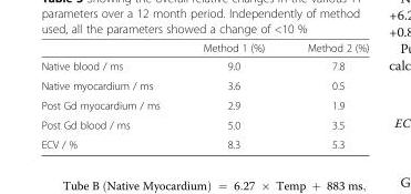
<table><thead><tr><td></td><td>Method 1 (%)</td><td>Method 2 (%)</td></tr></thead><tbody><tr><td>Native blood / ms</td><td>9.0</td><td>7.8</td></tr><tr><td>Native myocardium / ms</td><td>3.6</td><td>0.5</td></tr><tr><td>Post Gd myocardium / ms</td><td>2.9</td><td>1.9</td></tr><tr><td>Post Gd blood / ms</td><td>5.0</td><td>3.5</td></tr><tr><td>ECV / %</td><td>8.3</td><td>5.3</td></tr></tbody></table>